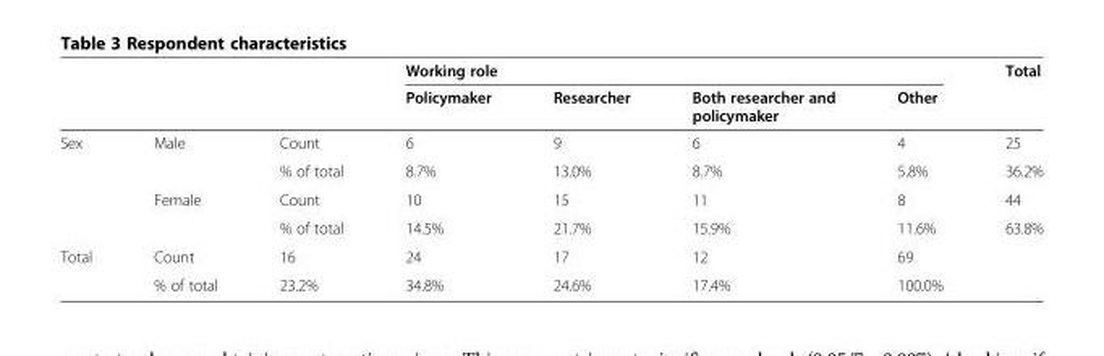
<table><thead><tr><td rowspan="2"></td><td rowspan="2"></td><td rowspan="2"></td><td colspan="4">Working role</td><td rowspan="2">Total</td></tr><tr><td>Policymaker</td><td>Researcher</td><td>Both researcher and policymaker</td><td>Other</td></tr></thead><tbody><tr><td rowspan="4">Sex</td><td>Male</td><td>Count</td><td>6</td><td>9</td><td>6</td><td>4</td><td>25</td></tr><tr><td></td><td>% of total</td><td>8.7%</td><td>13.0%</td><td>8.7%</td><td>5.8%</td><td>36.2%</td></tr><tr><td>Female</td><td>Count</td><td>10</td><td>15</td><td>11</td><td>8</td><td>44</td></tr><tr><td></td><td>% of total</td><td>14.5%</td><td>21.7%</td><td>15.9%</td><td>11.6%</td><td>63.8%</td></tr><tr><td rowspan="2">Total</td><td>Count</td><td>16</td><td>24</td><td>17</td><td>12</td><td>69</td><td></td></tr><tr><td>% of total</td><td>23.2%</td><td>34.8%</td><td>24.6%</td><td>17.4%</td><td>100.0%</td><td></td></tr></tbody></table>